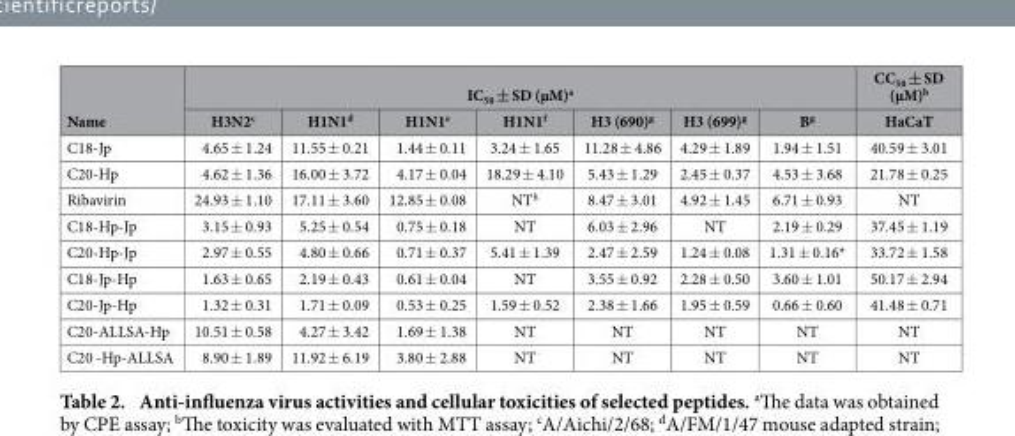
<table><thead><tr><td rowspan="2">Name</td><td colspan="7">IC<sub>50</sub> ± SD (μM)<sup>a</sup></td><td rowspan="2">CC<sub>50</sub> ± SD (μM)<sup>b</sup> HaCaT</td></tr><tr><td>H3N2<sup>c</sup></td><td>H1N1<sup>d</sup></td><td>H1N1<sup>e</sup></td><td>H1N1<sup>f</sup></td><td>H3 (690)<sup>g</sup></td><td>H3 (699)<sup>g</sup></td><td>B<sup>g</sup></td></tr></thead><tbody><tr><td>C18-Jp</td><td>4.65 ± 1.24</td><td>11.55 ± 0.21</td><td>1.44 ± 0.11</td><td>3.24 ± 1.65</td><td>11.28 ± 4.86</td><td>4.29 ± 1.89</td><td>1.94 ± 1.51</td><td>40.59 ± 3.01</td></tr><tr><td>C20-Hp</td><td>4.62 ± 1.36</td><td>16.00 ± 3.72</td><td>4.17 ± 0.04</td><td>18.29 ± 4.10</td><td>5.43 ± 1.29</td><td>2.45 ± 0.37</td><td>4.53 ± 3.68</td><td>21.78 ± 0.25</td></tr><tr><td>Ribavirin</td><td>24.93 ± 1.10</td><td>17.11 ± 3.60</td><td>12.85 ± 0.08</td><td>NT<sup>h</sup></td><td>8.47 ± 3.01</td><td>4.92 ± 1.45</td><td>6.71 ± 0.93</td><td>NT</td></tr><tr><td>C18-Hp-Jp</td><td>3.15 ± 0.93</td><td>5.25 ± 0.54</td><td>0.75 ± 0.18</td><td>NT</td><td>6.03 ± 2.96</td><td>NT</td><td>2.19 ± 0.29</td><td>37.45 ± 1.19</td></tr><tr><td>C20-Hp-Jp</td><td>2.97 ± 0.55</td><td>4.80 ± 0.66</td><td>0.71 ± 0.37</td><td>5.41 ± 1.39</td><td>2.47 ± 2.59</td><td>1.24 ± 0.08</td><td>1.31 ± 0.16*</td><td>33.72 ± 1.58</td></tr><tr><td>C18-Jp-Hp</td><td>1.63 ± 0.65</td><td>2.19 ± 0.43</td><td>0.61 ± 0.04</td><td>NT</td><td>3.55 ± 0.92</td><td>2.28 ± 0.50</td><td>3.60 ± 1.01</td><td>50.17 ± 2.94</td></tr><tr><td>C20-Jp-Hp</td><td>1.32 ± 0.31</td><td>1.71 ± 0.09</td><td>0.53 ± 0.25</td><td>1.59 ± 0.52</td><td>2.38 ± 1.66</td><td>1.95 ± 0.59</td><td>0.66 ± 0.60</td><td>41.48 ± 0.71</td></tr><tr><td>C20-ALLSA-Hp</td><td>10.51 ± 0.58</td><td>4.27 ± 3.42</td><td>1.69 ± 1.38</td><td>NT</td><td>NT</td><td>NT</td><td>NT</td><td>NT</td></tr><tr><td>C20 -Hp-ALLSA</td><td>8.90 ± 1.89</td><td>11.92 ± 6.19</td><td>3.80 ± 2.88</td><td>NT</td><td>NT</td><td>NT</td><td>NT</td><td>NT</td></tr></tbody></table>